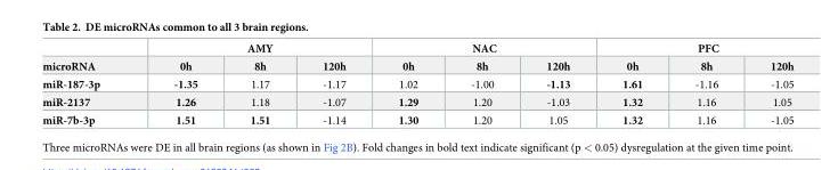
<table><thead><tr><td rowspan="2">microRNA</td><td colspan="3">AMY</td><td colspan="3">NAC</td><td colspan="3">PFC</td></tr><tr><td>0h</td><td>8h</td><td>120h</td><td>0h</td><td>8h</td><td>120h</td><td>0h</td><td>8h</td><td>120h</td></tr></thead><tbody><tr><td>miR-187-3p</td><td>-1.35</td><td>1.17</td><td>-1.17</td><td>1.02</td><td>-1.00</td><td>-1.13</td><td>1.61</td><td>-1.16</td><td>-1.05</td></tr><tr><td>miR-2137</td><td>1.26</td><td>1.18</td><td>-1.07</td><td>1.29</td><td>1.20</td><td>-1.03</td><td>1.32</td><td>1.16</td><td>1.05</td></tr><tr><td>miR-7b-3p</td><td>1.51</td><td>1.51</td><td>-1.14</td><td>1.30</td><td>1.20</td><td>1.05</td><td>1.32</td><td>1.16</td><td>-1.05</td></tr></tbody></table>